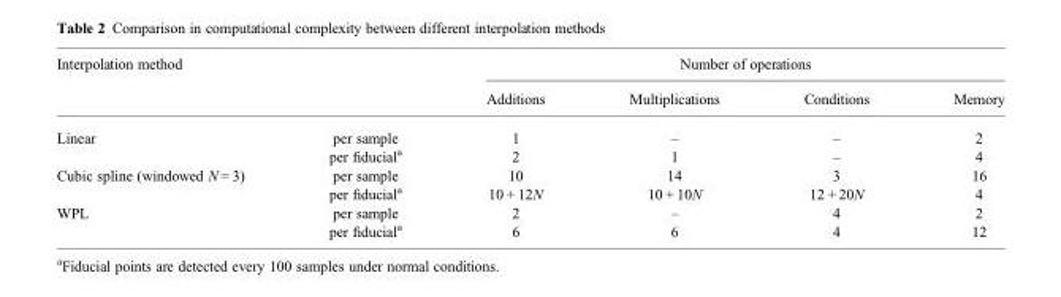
<table><thead><tr><td rowspan="2">Interpolation method</td><td rowspan="2"></td><td colspan="4">Number of operations</td></tr><tr><td>Additions</td><td>Multiplications</td><td>Conditions</td><td>Memory</td></tr></thead><tbody><tr><td rowspan="2">Linear</td><td>per sample</td><td>1</td><td>–</td><td>–</td><td>2</td></tr><tr><td>per fiducial<sup>a</sup></td><td>2</td><td>1</td><td>–</td><td>4</td></tr><tr><td rowspan="2">Cubic spline (windowed N = 3)</td><td>per sample</td><td>10</td><td>14</td><td>3</td><td>16</td></tr><tr><td>per fiducial<sup>a</sup></td><td>10 + 12N</td><td>10 + 10N</td><td>12 + 20N</td><td>4</td></tr><tr><td rowspan="2">WPL</td><td>per sample</td><td>2</td><td>–</td><td>4</td><td>2</td></tr><tr><td>per fiducial<sup>a</sup></td><td>6</td><td>6</td><td>4</td><td>12</td></tr></tbody></table>